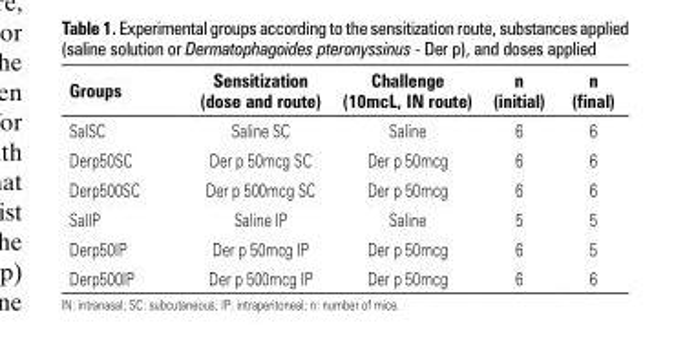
<table><thead><tr><td>Groups</td><td>Sensitization (dose and route)</td><td>Challenge (10mcL, IN route)</td><td>n (initial)</td><td>n (final)</td></tr></thead><tbody><tr><td>SalSC</td><td>Saline SC</td><td>Saline</td><td>6</td><td>6</td></tr><tr><td>Derp50SC</td><td>Der p 50mcg SC</td><td>Der p 50mcg</td><td>6</td><td>6</td></tr><tr><td>Derp500SC</td><td>Der p 500mcg SC</td><td>Der p 50mcg</td><td>6</td><td>6</td></tr><tr><td>SalIP</td><td>Saline IP</td><td>Saline</td><td>5</td><td>5</td></tr><tr><td>Derp50IP</td><td>Der p 50mcg IP</td><td>Der p 50mcg</td><td>6</td><td>5</td></tr><tr><td>Derp500IP</td><td>Der p 500mcg IP</td><td>Der p 50mcg</td><td>6</td><td>6</td></tr></tbody></table>